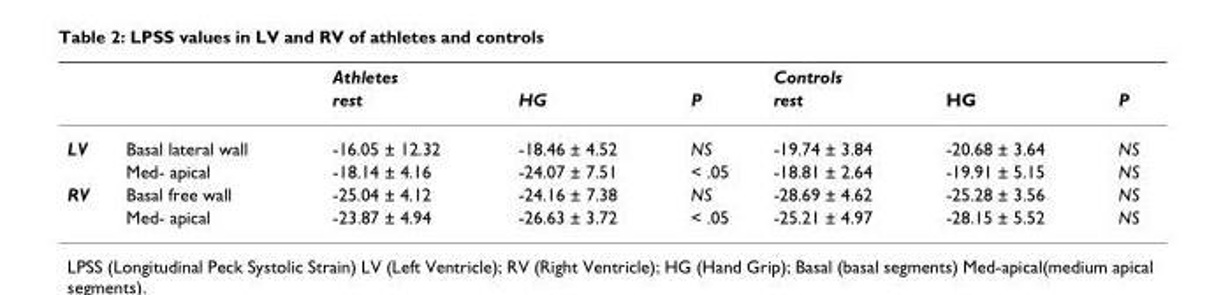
<table><thead><tr><td rowspan="2"></td><td rowspan="2"></td><td rowspan="2">Athletes rest</td><td rowspan="2">HG</td><td rowspan="2">P</td><td rowspan="2">Controls rest</td><td rowspan="2">HG</td><td rowspan="2">P</td></tr><tr></tr></thead><tbody><tr><td rowspan="2">LV</td><td>Basal lateral wall</td><td>-16.05 ± 12.32</td><td>-18.46 ± 4.52</td><td>NS</td><td>-19.74 ± 3.84</td><td>-20.68 ± 3.64</td><td>NS</td></tr><tr><td>Med- apical</td><td>-18.14 ± 4.16</td><td>-24.07 ± 7.51</td><td>&lt; .05</td><td>-18.81 ± 2.64</td><td>-19.91 ± 5.15</td><td>NS</td></tr><tr><td rowspan="2">RV</td><td>Basal free wall</td><td>-25.04 ± 4.12</td><td>-24.16 ± 7.38</td><td>NS</td><td>-28.69 ± 4.62</td><td>-25.28 ± 3.56</td><td>NS</td></tr><tr><td>Med- apical</td><td>-23.87 ± 4.94</td><td>-26.63 ± 3.72</td><td>&lt; .05</td><td>-25.21 ± 4.97</td><td>-28.15 ± 5.52</td><td>NS</td></tr></tbody></table>